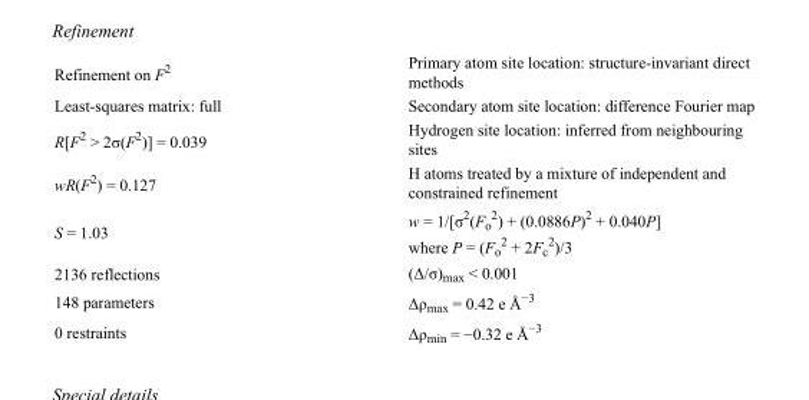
<table><tbody><tr><td>Refinement on F<sup>2</sup></td><td>Primary atom site location: structure-invariant direct methods</td></tr><tr><td>Least-squares matrix: full</td><td>Secondary atom site location: difference Fourier map</td></tr><tr><td>R[F<sup>2</sup> &gt; 2σ(F<sup>2</sup>)] = 0.039</td><td>Hydrogen site location: inferred from neighbouring sites</td></tr><tr><td>wR(F<sup>2</sup>) = 0.127</td><td>H atoms treated by a mixture of independent and constrained refinement</td></tr><tr><td>S = 1.03</td><td>w = 1/[σ<sup>2</sup>(F<sub>o</sub> <sup>2</sup>) + (0.0886P)<sup>2</sup> + 0.040P] where P = (F<sub>o</sub> <sup>2</sup> + 2F<sub>c</sub> <sup>2</sup>)/3</td></tr><tr><td>2136 reflections</td><td>(Δ/σ)<sub>max</sub> &lt; 0.001</td></tr><tr><td>148 parameters</td><td>Δρ<sub>max</sub> = 0.42 e Å<sup>−3</sup></td></tr><tr><td>0 restraints</td><td>Δρ<sub>min</sub> = −0.32 e Å<sup>−3</sup></td></tr></tbody></table>